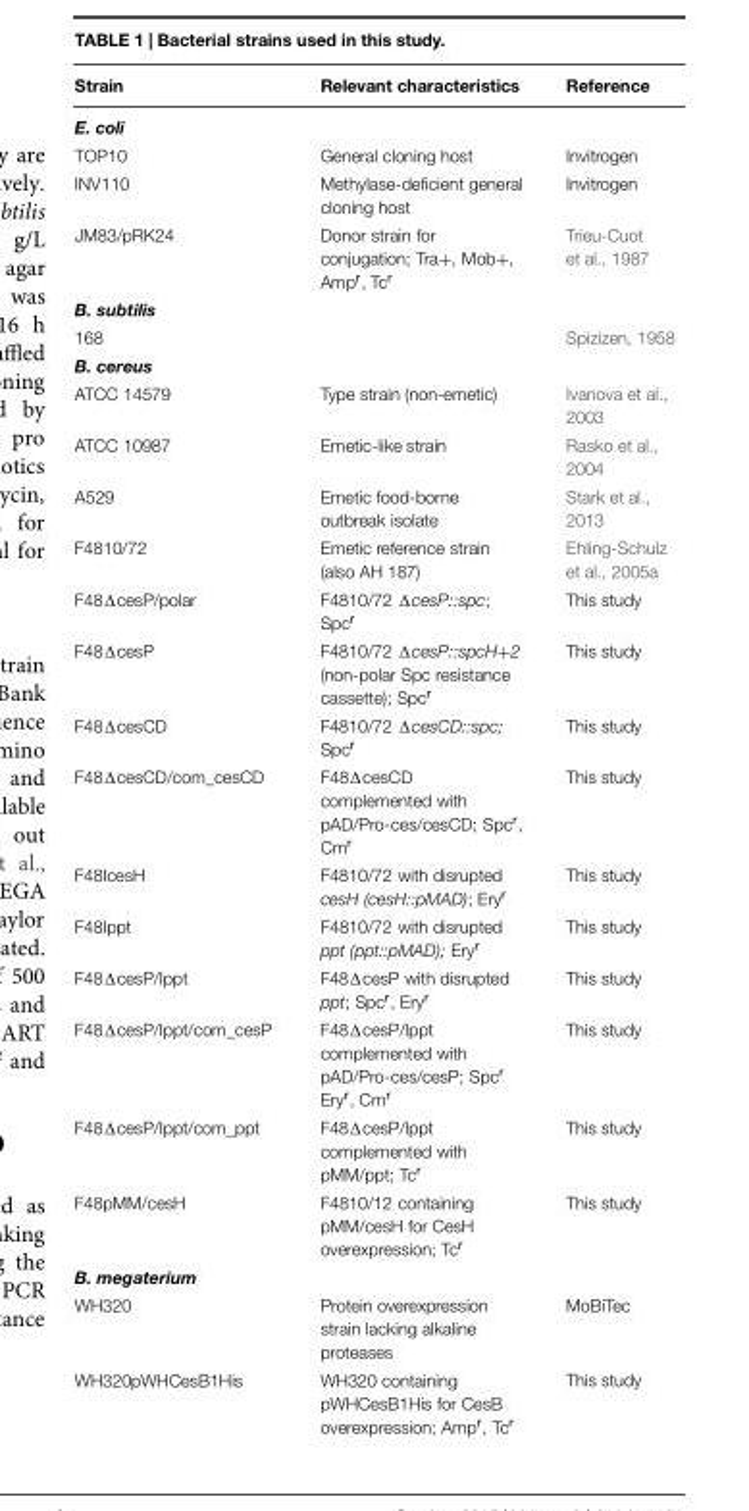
<table><thead><tr><td>Strain</td><td>Relevant characteristics</td><td>Reference</td></tr></thead><tbody><tr><td colspan="3">E. coli</td></tr><tr><td>TOP10</td><td>General cloning host</td><td>Invitrogen</td></tr><tr><td>INV110</td><td>Methylase-deficient general cloning host</td><td>Invitrogen</td></tr><tr><td>JM83/pRK24</td><td>Donor strain for conjugation; Tra+, Mob+, Amp<sup>r</sup>, Tc<sup>r</sup></td><td>Trieu-Cuot et al., 1987</td></tr><tr><td colspan="3">B. subtilis</td></tr><tr><td>168</td><td></td><td>Spizizen, 1958</td></tr><tr><td colspan="3">B. cereus</td></tr><tr><td>ATCC 14579</td><td>Type strain (non-emetic)</td><td>Ivanova et al., 2003</td></tr><tr><td>ATCC 10987</td><td>Emetic-like strain</td><td>Rasko et al., 2004</td></tr><tr><td>A529</td><td>Emetic food-borne outbreak isolate</td><td>Stark et al., 2013</td></tr><tr><td>F4810/72</td><td>Emetic reference strain (also AH 187)</td><td>Ehling-Schulz et al., 2005a</td></tr><tr><td>F48ΔcesP/polar</td><td>F4810/72 ΔcesP::spc; Spc<sup>r</sup></td><td>This study</td></tr><tr><td>F48ΔcesP</td><td>F4810/72 ΔcesP::spcH+2 (non-polar Spc resistance cassette); Spc<sup>r</sup></td><td>This study</td></tr><tr><td>F48ΔcesCD</td><td>F4810/72 ΔcesCD::spc; Spc<sup>r</sup></td><td>This study</td></tr><tr><td>F48ΔcesCD/com_cesCD</td><td>F48ΔcesCD complemented with pAD/Pro-ces/cesCD; Spc<sup>r</sup>, Cm<sup>r</sup></td><td>This study</td></tr><tr><td>F48IcesH</td><td>F4810/72 with disrupted cesH (cesH::pMAD); Ery<sup>r</sup></td><td>This study</td></tr><tr><td>F48Ippt</td><td>F4810/72 with disrupted ppt (ppt::pMAD); Ery<sup>r</sup></td><td>This study</td></tr><tr><td>F48ΔcesP/Ippt</td><td>F48ΔcesP with disrupted ppt; Spc<sup>r</sup>, Ery<sup>r</sup></td><td>This study</td></tr><tr><td>F48ΔcesP/Ippt/com_cesP</td><td>F48ΔcesP/Ippt complemented with pAD/Pro-ces/cesP; Spc<sup>r</sup> Ery<sup>r</sup>, Cm<sup>r</sup></td><td>This study</td></tr><tr><td>F48ΔcesP/Ippt/com_ppt</td><td>F48ΔcesP/Ippt complemented with pMM/ppt; Tc<sup>r</sup></td><td>This study</td></tr><tr><td>F48pMM/cesH</td><td>F4810/12 containing pMM/cesH for CesH overexpression; Tc<sup>r</sup></td><td>This study</td></tr><tr><td colspan="3">B. megaterium</td></tr><tr><td>WH320</td><td>Protein overexpression strain lacking alkaline proteases</td><td>MoBiTec</td></tr><tr><td>WH320pWHCesB1His</td><td>WH320 containing pWHCesB1His for CesB overexpression; Amp<sup>r</sup>, Tc<sup>r</sup></td><td>This study</td></tr></tbody></table>